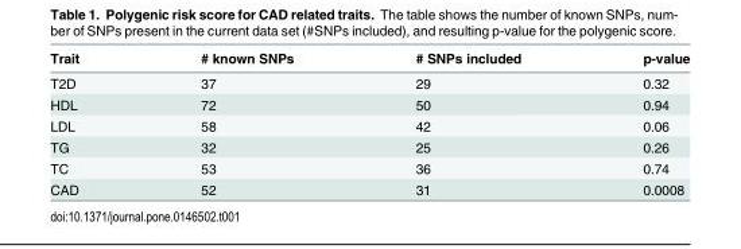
<table><thead><tr><td>Trait</td><td># known SNPs</td><td># SNPs included</td><td>p-value</td></tr></thead><tbody><tr><td>T2D</td><td>37</td><td>29</td><td>0.32</td></tr><tr><td>HDL</td><td>72</td><td>50</td><td>0.94</td></tr><tr><td>LDL</td><td>58</td><td>42</td><td>0.06</td></tr><tr><td>TG</td><td>32</td><td>25</td><td>0.26</td></tr><tr><td>TC</td><td>53</td><td>36</td><td>0.74</td></tr><tr><td>CAD</td><td>52</td><td>31</td><td>0.0008</td></tr></tbody></table>